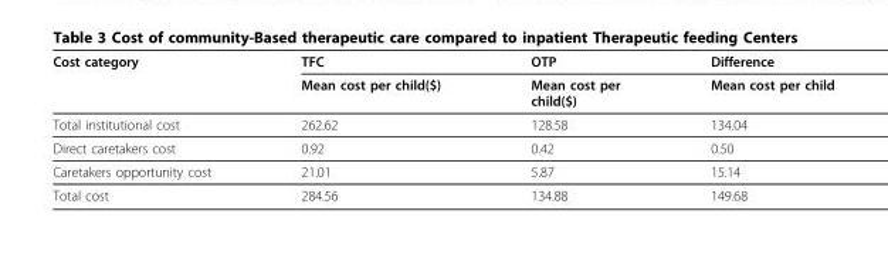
<table><thead><tr><td rowspan="2">Cost category</td><td rowspan="2">TFC Mean cost per child($)</td><td rowspan="2">OTP Mean cost per child($)</td><td rowspan="2">Difference Mean cost per child</td></tr><tr></tr></thead><tbody><tr><td>Total institutional cost</td><td>262.62</td><td>128.58</td><td>134.04</td></tr><tr><td>Direct caretakers cost</td><td>0.92</td><td>0.42</td><td>0.50</td></tr><tr><td>Caretakers opportunity cost</td><td>21.01</td><td>5.87</td><td>15.14</td></tr><tr><td>Total cost</td><td>284.56</td><td>134.88</td><td>149.68</td></tr></tbody></table>